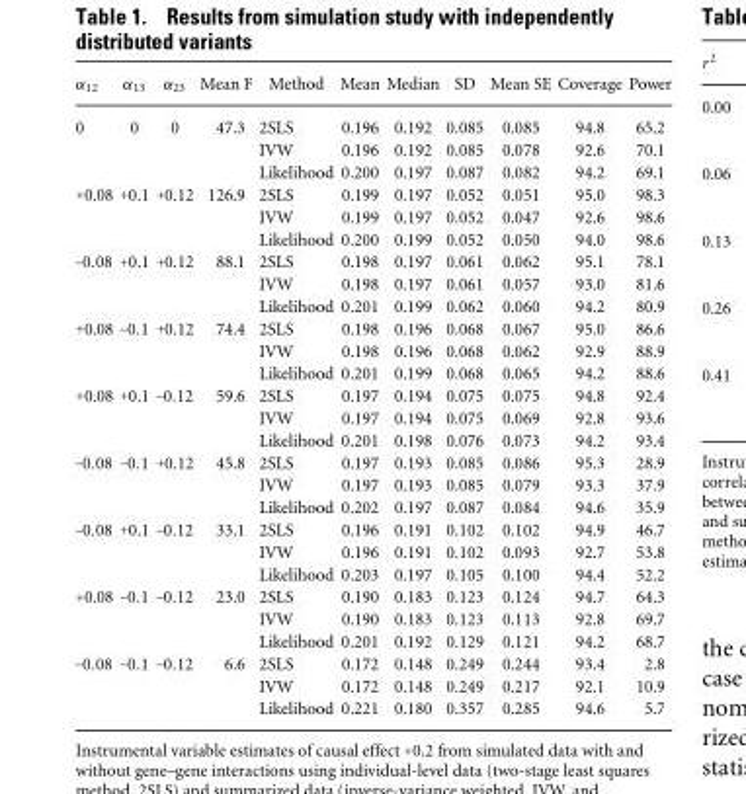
<table><thead><tr><td>α<sub>12</sub></td><td>α<sub>13</sub></td><td>α<sub>23</sub></td><td>Mean F</td><td>Method</td><td>Mean</td><td>Median</td><td>SD</td><td>Mean SE</td><td>Coverage</td><td>Power</td></tr></thead><tbody><tr><td rowspan="3">0</td><td>0</td><td>0</td><td>47.3</td><td>2SLS</td><td>0.196</td><td>0.192</td><td>0.085</td><td>0.085</td><td>94.8</td><td>65.2</td></tr><tr><td></td><td></td><td></td><td>IVW</td><td>0.196</td><td>0.192</td><td>0.085</td><td>0.078</td><td>92.6</td><td>70.1</td></tr><tr><td></td><td></td><td></td><td>Likelihood</td><td>0.200</td><td>0.197</td><td>0.087</td><td>0.082</td><td>94.2</td><td>69.1</td></tr><tr><td rowspan="3">+0.08</td><td>+0.1</td><td>+0.12</td><td>126.9</td><td>2SLS</td><td>0.199</td><td>0.197</td><td>0.052</td><td>0.051</td><td>95.0</td><td>98.3</td></tr><tr><td></td><td></td><td></td><td>IVW</td><td>0.199</td><td>0.197</td><td>0.052</td><td>0.047</td><td>92.6</td><td>98.6</td></tr><tr><td></td><td></td><td></td><td>Likelihood</td><td>0.200</td><td>0.199</td><td>0.052</td><td>0.050</td><td>94.0</td><td>98.6</td></tr><tr><td rowspan="3">–0.08</td><td>+0.1</td><td>+0.12</td><td>88.1</td><td>2SLS</td><td>0.198</td><td>0.197</td><td>0.061</td><td>0.062</td><td>95.1</td><td>78.1</td></tr><tr><td></td><td></td><td></td><td>IVW</td><td>0.198</td><td>0.197</td><td>0.061</td><td>0.057</td><td>93.0</td><td>81.6</td></tr><tr><td></td><td></td><td></td><td>Likelihood</td><td>0.201</td><td>0.199</td><td>0.062</td><td>0.060</td><td>94.2</td><td>80.9</td></tr><tr><td rowspan="3">+0.08</td><td>–0.1</td><td>+0.12</td><td>74.4</td><td>2SLS</td><td>0.198</td><td>0.196</td><td>0.068</td><td>0.067</td><td>95.0</td><td>86.6</td></tr><tr><td></td><td></td><td></td><td>IVW</td><td>0.198</td><td>0.196</td><td>0.068</td><td>0.062</td><td>92.9</td><td>88.9</td></tr><tr><td></td><td></td><td></td><td>Likelihood</td><td>0.201</td><td>0.199</td><td>0.068</td><td>0.065</td><td>94.2</td><td>88.6</td></tr><tr><td rowspan="3">+0.08</td><td>+0.1</td><td>–0.12</td><td>59.6</td><td>2SLS</td><td>0.197</td><td>0.194</td><td>0.075</td><td>0.075</td><td>94.8</td><td>92.4</td></tr><tr><td></td><td></td><td></td><td>IVW</td><td>0.197</td><td>0.194</td><td>0.075</td><td>0.069</td><td>92.8</td><td>93.6</td></tr><tr><td></td><td></td><td></td><td>Likelihood</td><td>0.201</td><td>0.198</td><td>0.076</td><td>0.073</td><td>94.2</td><td>93.4</td></tr><tr><td rowspan="3">–0.08</td><td>–0.1</td><td>+0.12</td><td>45.8</td><td>2SLS</td><td>0.197</td><td>0.193</td><td>0.085</td><td>0.086</td><td>95.3</td><td>28.9</td></tr><tr><td></td><td></td><td></td><td>IVW</td><td>0.197</td><td>0.193</td><td>0.085</td><td>0.079</td><td>93.3</td><td>37.9</td></tr><tr><td></td><td></td><td></td><td>Likelihood</td><td>0.202</td><td>0.197</td><td>0.087</td><td>0.084</td><td>94.6</td><td>35.9</td></tr><tr><td rowspan="3">–0.08</td><td>+0.1</td><td>–0.12</td><td>33.1</td><td>2SLS</td><td>0.196</td><td>0.191</td><td>0.102</td><td>0.102</td><td>94.9</td><td>46.7</td></tr><tr><td></td><td></td><td></td><td>IVW</td><td>0.196</td><td>0.191</td><td>0.102</td><td>0.093</td><td>92.7</td><td>53.8</td></tr><tr><td></td><td></td><td></td><td>Likelihood</td><td>0.203</td><td>0.197</td><td>0.105</td><td>0.100</td><td>94.4</td><td>52.2</td></tr><tr><td rowspan="3">+0.08</td><td>–0.1</td><td>–0.12</td><td>23.0</td><td>2SLS</td><td>0.190</td><td>0.183</td><td>0.123</td><td>0.124</td><td>94.7</td><td>64.3</td></tr><tr><td></td><td></td><td></td><td>IVW</td><td>0.190</td><td>0.183</td><td>0.123</td><td>0.113</td><td>92.8</td><td>69.7</td></tr><tr><td></td><td></td><td></td><td>Likelihood</td><td>0.201</td><td>0.192</td><td>0.129</td><td>0.121</td><td>94.2</td><td>68.7</td></tr><tr><td rowspan="3">–0.08</td><td>–0.1</td><td>–0.12</td><td>6.6</td><td>2SLS</td><td>0.172</td><td>0.148</td><td>0.249</td><td>0.244</td><td>93.4</td><td>2.8</td></tr><tr><td></td><td></td><td></td><td>IVW</td><td>0.172</td><td>0.148</td><td>0.249</td><td>0.217</td><td>92.1</td><td>10.9</td></tr><tr><td></td><td></td><td></td><td>Likelihood</td><td>0.221</td><td>0.180</td><td>0.357</td><td>0.285</td><td>94.6</td><td>5.7</td></tr></tbody></table>